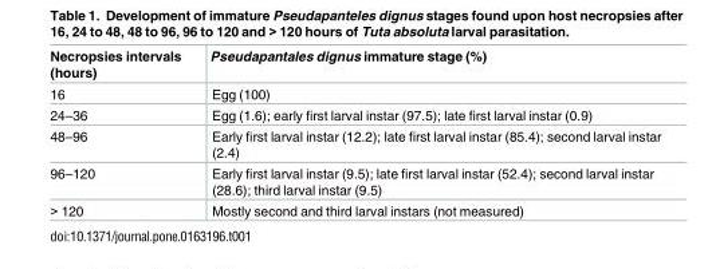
<table><thead><tr><td>Necropsies intervals (hours)</td><td>Pseudapantales dignus immature stage (%)</td></tr></thead><tbody><tr><td>16</td><td>Egg (100)</td></tr><tr><td>24–36</td><td>Egg (1.6); early first larval instar (97.5); late first larval instar (0.9)</td></tr><tr><td>48–96</td><td>Early first larval instar (12.2); late first larval instar (85.4); second larval instar (2.4)</td></tr><tr><td>96–120</td><td>Early first larval instar (9.5); late first larval instar (52.4); second larval instar (28.6); third larval instar (9.5)</td></tr><tr><td>&gt; 120</td><td>Mostly second and third larval instars (not measured)</td></tr></tbody></table>